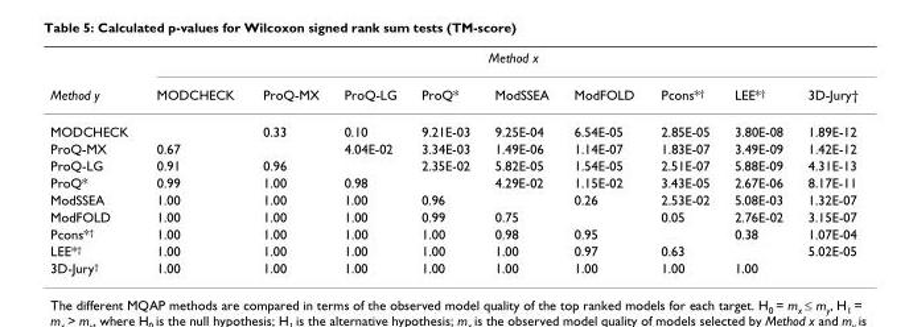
<table><thead><tr><td rowspan="2">Method y</td><td colspan="9">Method x</td></tr><tr><td>MODCHECK</td><td>ProQ-MX</td><td>ProQ-LG</td><td>ProQ*</td><td>ModSSEA</td><td>ModFOLD</td><td>Pcons*<sup>†</sup></td><td>LEE*<sup>†</sup></td><td>3D-Jury†</td></tr></thead><tbody><tr><td>MODCHECK</td><td></td><td>0.33</td><td>0.10</td><td>9.21E-03</td><td>9.25E-04</td><td>6.54E-05</td><td>2.85E-05</td><td>3.80E-08</td><td>1.89E-12</td></tr><tr><td>ProQ-MX</td><td>0.67</td><td></td><td>4.04E-02</td><td>3.34E-03</td><td>1.49E-06</td><td>1.14E-07</td><td>1.83E-07</td><td>3.49E-09</td><td>1.42E-12</td></tr><tr><td>ProQ-LG</td><td>0.91</td><td>0.96</td><td></td><td>2.35E-02</td><td>5.82E-05</td><td>1.54E-05</td><td>2.51E-07</td><td>5.88E-09</td><td>4.31E-13</td></tr><tr><td>ProQ*</td><td>0.99</td><td>1.00</td><td>0.98</td><td></td><td>4.29E-02</td><td>1.15E-02</td><td>3.43E-05</td><td>2.67E-06</td><td>8.17E-11</td></tr><tr><td>ModSSEA</td><td>1.00</td><td>1.00</td><td>1.00</td><td>0.96</td><td></td><td>0.26</td><td>2.53E-02</td><td>5.08E-03</td><td>1.32E-07</td></tr><tr><td>ModFOLD</td><td>1.00</td><td>1.00</td><td>1.00</td><td>0.99</td><td>0.75</td><td></td><td>0.05</td><td>2.76E-02</td><td>3.15E-07</td></tr><tr><td>Pcons*<sup>†</sup></td><td>1.00</td><td>1.00</td><td>1.00</td><td>1.00</td><td>0.98</td><td>0.95</td><td></td><td>0.38</td><td>1.07E-04</td></tr><tr><td>LEE*<sup>†</sup></td><td>1.00</td><td>1.00</td><td>1.00</td><td>1.00</td><td>1.00</td><td>0.97</td><td>0.63</td><td></td><td>5.02E-05</td></tr><tr><td>3D-Jury<sup>†</sup></td><td>1.00</td><td>1.00</td><td>1.00</td><td>1.00</td><td>1.00</td><td>1.00</td><td>1.00</td><td>1.00</td><td></td></tr></tbody></table>